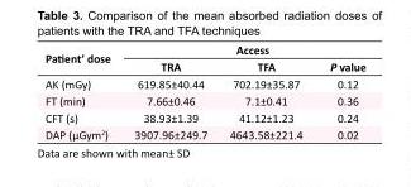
<table><tbody><tr><td rowspan="2">Patient’ dose</td><td colspan="3">Access</td></tr><tr><td>TRA</td><td>TFA</td><td>P value</td></tr><tr><td>AK (mGy)</td><td>619.85±40.44</td><td>702.19±35.87</td><td>0.12</td></tr><tr><td>FT (min)</td><td>7.66±0.46</td><td>7.1±0.41</td><td>0.36</td></tr><tr><td>CFT (s)</td><td>38.93±1.39</td><td>41.12±1.23</td><td>0.24</td></tr><tr><td>DAP (µGym<sup>2</sup>)</td><td>3907.96±249.7</td><td>4643.58±221.4</td><td>0.02</td></tr></tbody></table>